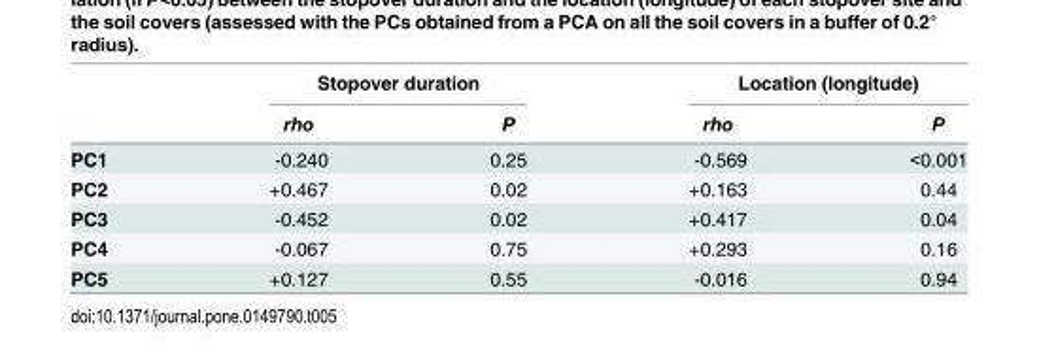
<table><thead><tr><td rowspan="2"></td><td colspan="2">Stopover duration</td><td colspan="2">Location (longitude)</td></tr><tr><td>rho</td><td>P</td><td>rho</td><td>P</td></tr></thead><tbody><tr><td>PC1</td><td>-0.240</td><td>0.25</td><td>-0.569</td><td>&lt;0.001</td></tr><tr><td>PC2</td><td>+0.467</td><td>0.02</td><td>+0.163</td><td>0.44</td></tr><tr><td>PC3</td><td>-0.452</td><td>0.02</td><td>+0.417</td><td>0.04</td></tr><tr><td>PC4</td><td>-0.067</td><td>0.75</td><td>+0.293</td><td>0.16</td></tr><tr><td>PC5</td><td>+0.127</td><td>0.55</td><td>-0.016</td><td>0.94</td></tr></tbody></table>